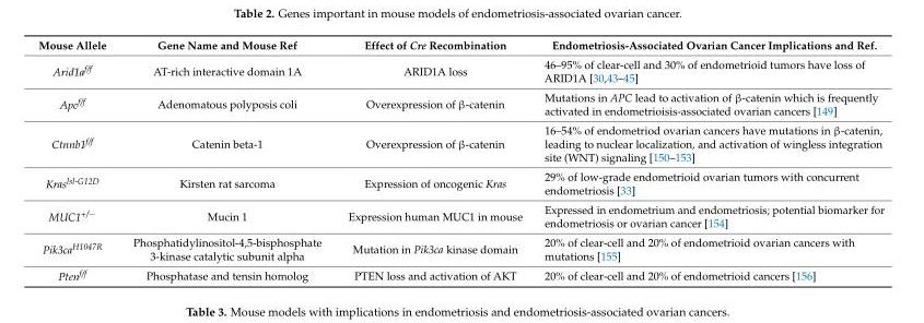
<table><thead><tr><td>Mouse Allele</td><td>Gene Name and Mouse Ref</td><td>Effect of Cre Recombination</td><td>Endometriosis-Associated Ovarian Cancer Implications and Ref.</td></tr></thead><tbody><tr><td>Arid1a<sup>f/f</sup></td><td>AT-rich interactive domain 1A</td><td>ARID1A loss</td><td>46–95% of clear-cell and 30% of endometrioid tumors have loss of ARID1A [30,43–45]</td></tr><tr><td>Apc<sup>f/f</sup></td><td>Adenomatous polyposis coli</td><td>Overexpression of β-catenin</td><td>Mutations in APC lead to activation of β-catenin which is frequently activated in endometrioisis-associated ovarian cancers [149]</td></tr><tr><td>Ctnnb1<sup>f/f</sup></td><td>Catenin beta-1</td><td>Overexpression of β-catenin</td><td>16–54% of endometriod ovarian cancers have mutations in β-catenin, leading to nuclear localization, and activation of wingless integration site (WNT) signaling [150–153]</td></tr><tr><td>Kras<sup>lsl-G12D</sup></td><td>Kirsten rat sarcoma</td><td>Expression of oncogenic Kras</td><td>29% of low-grade endometrioid ovarian tumors with concurrent endometriosis [33]</td></tr><tr><td>MUC1<sup>+/−</sup></td><td>Mucin 1</td><td>Expression human MUC1 in mouse</td><td>Expressed in endometrium and endometriosis; potential biomarker for endometriosis or ovarian cancer [154]</td></tr><tr><td>Pik3ca<sup>H1047R</sup></td><td>Phosphatidylinositol-4,5-bisphosphate 3-kinase catalytic subunit alpha</td><td>Mutation in Pik3ca kinase domain</td><td>20% of clear-cell and 20% of endometrioid ovarian cancers with mutations [155]</td></tr><tr><td>Pten<sup>f/f</sup></td><td>Phosphatase and tensin homolog</td><td>PTEN loss and activation of AKT</td><td>20% of clear-cell and 20% of endometrioid cancers [156]</td></tr></tbody></table>